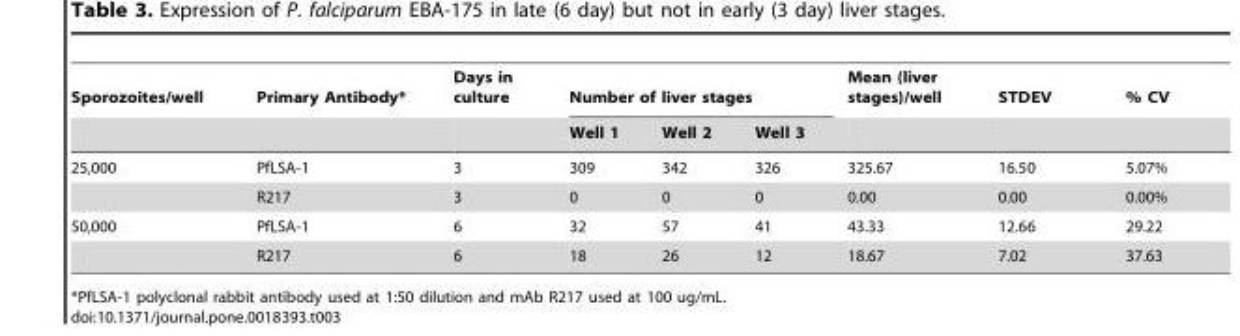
<table><thead><tr><td rowspan="2">Sporozoites/well</td><td rowspan="2">Primary Antibody*</td><td rowspan="2">Days in culture</td><td colspan="3">Number of liver stages</td><td rowspan="2">Mean (liver stages)/well</td><td rowspan="2">STDEV</td><td rowspan="2">% CV</td></tr><tr><td>Well 1</td><td>Well 2</td><td>Well 3</td></tr></thead><tbody><tr><td rowspan="2">25,000</td><td>PfLSA-1</td><td>3</td><td>309</td><td>342</td><td>326</td><td>325.67</td><td>16.50</td><td>5.07%</td></tr><tr><td>R217</td><td>3</td><td>0</td><td>0</td><td>0</td><td>0.00</td><td>0.00</td><td>0.00%</td></tr><tr><td rowspan="2">50,000</td><td>PfLSA-1</td><td>6</td><td>32</td><td>57</td><td>41</td><td>43.33</td><td>12.66</td><td>29.22</td></tr><tr><td>R217</td><td>6</td><td>18</td><td>26</td><td>12</td><td>18.67</td><td>7.02</td><td>37.63</td></tr></tbody></table>